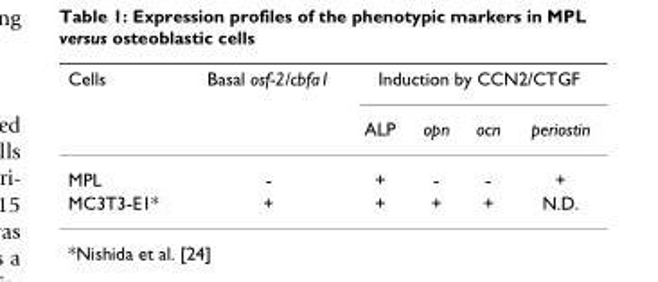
<table><thead><tr><td rowspan="2">Cells</td><td rowspan="2">Basal osf-2/cbfa1</td><td colspan="4">Induction by CCN2/CTGF</td></tr><tr><td>ALP</td><td>opn</td><td>ocn</td><td>periostin</td></tr></thead><tbody><tr><td>MPL</td><td>-</td><td>+</td><td>-</td><td>-</td><td>+</td></tr><tr><td>MC3T3-E1*</td><td>+</td><td>+</td><td>+</td><td>+</td><td>N.D.</td></tr></tbody></table>